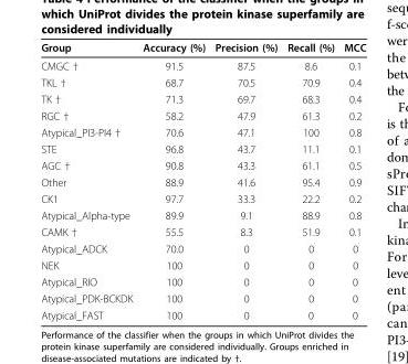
<table><thead><tr><td>Group</td><td>Accuracy (%)</td><td>Precision (%)</td><td>Recall (%)</td><td>MCC</td></tr></thead><tbody><tr><td>CMGC †</td><td>91.5</td><td>87.5</td><td>8.6</td><td>0.1</td></tr><tr><td>TKL †</td><td>68.7</td><td>70.5</td><td>70.9</td><td>0.4</td></tr><tr><td>TK †</td><td>71.3</td><td>69.7</td><td>68.3</td><td>0.4</td></tr><tr><td>RGC †</td><td>58.2</td><td>47.9</td><td>61.3</td><td>0.2</td></tr><tr><td>Atypical_PI3-PI4 †</td><td>70.6</td><td>47.1</td><td>100</td><td>0.8</td></tr><tr><td>STE</td><td>96.8</td><td>43.7</td><td>11.1</td><td>0.1</td></tr><tr><td>AGC †</td><td>90.8</td><td>43.3</td><td>61.1</td><td>0.5</td></tr><tr><td>Other</td><td>88.9</td><td>41.6</td><td>95.4</td><td>0.9</td></tr><tr><td>CK1</td><td>97.7</td><td>33.3</td><td>22.2</td><td>0.2</td></tr><tr><td>Atypical_Alpha-type</td><td>89.9</td><td>9.1</td><td>88.9</td><td>0.8</td></tr><tr><td>CAMK †</td><td>55.5</td><td>8.3</td><td>51.9</td><td>0.1</td></tr><tr><td>Atypical_ADCK</td><td>70.0</td><td>0</td><td>0</td><td>0</td></tr><tr><td>NEK</td><td>100</td><td>0</td><td>0</td><td>0</td></tr><tr><td>Atypical_RIO</td><td>100</td><td>0</td><td>0</td><td>0</td></tr><tr><td>Atypical_PDK-BCKDK</td><td>100</td><td>0</td><td>0</td><td>0</td></tr><tr><td>Atypical_FAST</td><td>100</td><td>0</td><td>0</td><td>0</td></tr></tbody></table>